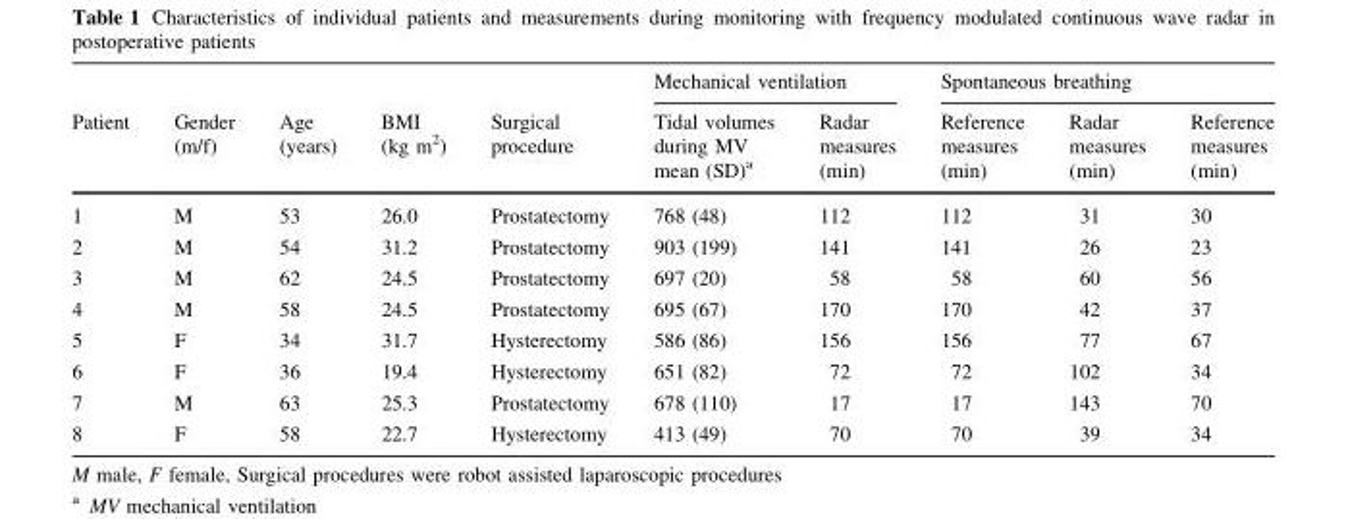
<table><thead><tr><td rowspan="2">Patient</td><td rowspan="2">Gender (m/f)</td><td rowspan="2">Age (years)</td><td rowspan="2">BMI (kg m<sup>2</sup>)</td><td rowspan="2">Surgical procedure</td><td colspan="2">Mechanical ventilation</td><td colspan="3">Spontaneous breathing</td></tr><tr><td>Tidal volumes during MV mean (SD)<sup>a</sup></td><td>Radar measures (min)</td><td>Reference measures (min)</td><td>Radar measures (min)</td><td>Reference measures (min)</td></tr></thead><tbody><tr><td>1</td><td>M</td><td>53</td><td>26.0</td><td>Prostatectomy</td><td>768 (48)</td><td>112</td><td>112</td><td>31</td><td>30</td></tr><tr><td>2</td><td>M</td><td>54</td><td>31.2</td><td>Prostatectomy</td><td>903 (199)</td><td>141</td><td>141</td><td>26</td><td>23</td></tr><tr><td>3</td><td>M</td><td>62</td><td>24.5</td><td>Prostatectomy</td><td>697 (20)</td><td>58</td><td>58</td><td>60</td><td>56</td></tr><tr><td>4</td><td>M</td><td>58</td><td>24.5</td><td>Prostatectomy</td><td>695 (67)</td><td>170</td><td>170</td><td>42</td><td>37</td></tr><tr><td>5</td><td>F</td><td>34</td><td>31.7</td><td>Hysterectomy</td><td>586 (86)</td><td>156</td><td>156</td><td>77</td><td>67</td></tr><tr><td>6</td><td>F</td><td>36</td><td>19.4</td><td>Hysterectomy</td><td>651 (82)</td><td>72</td><td>72</td><td>102</td><td>34</td></tr><tr><td>7</td><td>M</td><td>63</td><td>25.3</td><td>Prostatectomy</td><td>678 (110)</td><td>17</td><td>17</td><td>143</td><td>70</td></tr><tr><td>8</td><td>F</td><td>58</td><td>22.7</td><td>Hysterectomy</td><td>413 (49)</td><td>70</td><td>70</td><td>39</td><td>34</td></tr></tbody></table>